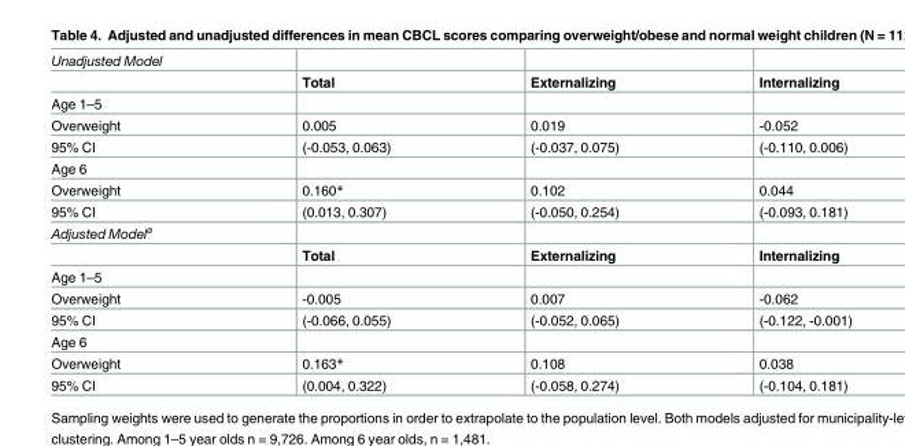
<table><tbody><tr><td colspan="4">Unadjusted Model</td></tr><tr><td></td><td>Total</td><td>Externalizing</td><td>Internalizing</td></tr><tr><td colspan="4">Age 1–5</td></tr><tr><td>Overweight</td><td>0.005</td><td>0.019</td><td>-0.052</td></tr><tr><td>95% CI</td><td>(-0.053, 0.063)</td><td>(-0.037, 0.075)</td><td>(-0.110, 0.006)</td></tr><tr><td colspan="4">Age 6</td></tr><tr><td>Overweight</td><td>0.160*</td><td>0.102</td><td>0.044</td></tr><tr><td>95% CI</td><td>(0.013, 0.307)</td><td>(-0.050, 0.254)</td><td>(-0.093, 0.181)</td></tr><tr><td colspan="4">Adjusted Model<sup>a</sup></td></tr><tr><td></td><td>Total</td><td>Externalizing</td><td>Internalizing</td></tr><tr><td colspan="4">Age 1–5</td></tr><tr><td>Overweight</td><td>-0.005</td><td>0.007</td><td>-0.062</td></tr><tr><td>95% CI</td><td>(-0.066, 0.055)</td><td>(-0.052, 0.065)</td><td>(-0.122, -0.001)</td></tr><tr><td colspan="4">Age 6</td></tr><tr><td>Overweight</td><td>0.163*</td><td>0.108</td><td>0.038</td></tr><tr><td>95% CI</td><td>(0.004, 0.322)</td><td>(-0.058, 0.274)</td><td>(-0.104, 0.181)</td></tr></tbody></table>